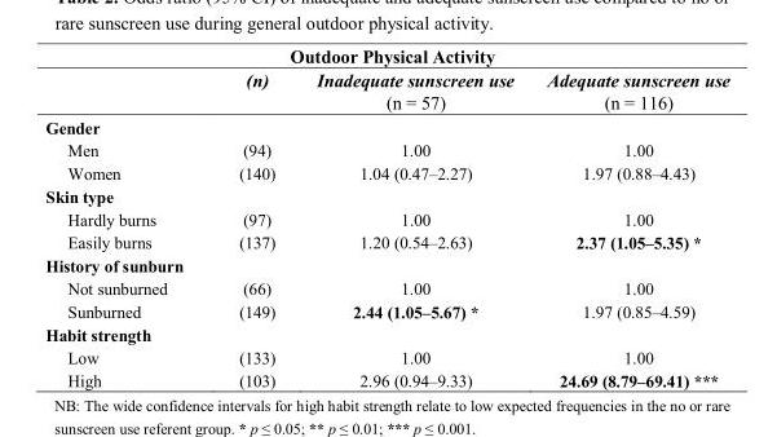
<table><thead><tr><td colspan="4">Outdoor Physical Activity</td></tr><tr><td></td><td>(n)</td><td>Inadequate sunscreen use (n = 57)</td><td>Adequate sunscreen use (n = 116)</td></tr></thead><tbody><tr><td colspan="4">Gender</td></tr><tr><td>Men</td><td>(94)</td><td>1.00</td><td>1.00</td></tr><tr><td>Women</td><td>(140)</td><td>1.04 (0.47–2.27)</td><td>1.97 (0.88–4.43)</td></tr><tr><td colspan="4">Skin type</td></tr><tr><td>Hardly burns</td><td>(97)</td><td>1.00</td><td>1.00</td></tr><tr><td>Easily burns</td><td>(137)</td><td>1.20 (0.54–2.63)</td><td>2.37 (1.05–5.35) *</td></tr><tr><td colspan="4">History of sunburn</td></tr><tr><td>Not sunburned</td><td>(66)</td><td>1.00</td><td>1.00</td></tr><tr><td>Sunburned</td><td>(149)</td><td>2.44 (1.05–5.67) *</td><td>1.97 (0.85–4.59)</td></tr><tr><td colspan="4">Habit strength</td></tr><tr><td>Low</td><td>(133)</td><td>1.00</td><td>1.00</td></tr><tr><td>High</td><td>(103)</td><td>2.96 (0.94–9.33)</td><td>24.69 (8.79–69.41) ***</td></tr></tbody></table>